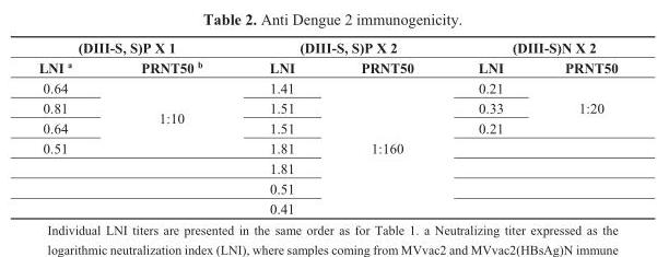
<table><thead><tr><td colspan="2">(DIII-S, S)P X 1</td><td colspan="2">(DIII-S, S)P X 2</td><td colspan="2">(DIII-S)N X 2</td></tr><tr><td>LNI <sup>a</sup></td><td>PRNT50 <sup>b</sup></td><td>LNI</td><td>PRNT50</td><td>LNI</td><td>PRNT50</td></tr></thead><tbody><tr><td>0.64</td><td rowspan="4">1:10</td><td>1.41</td><td rowspan="7">1:160</td><td>0.21</td><td rowspan="3">1:20</td></tr><tr><td>0.81</td><td>1.51</td><td>0.33</td></tr><tr><td>0.64</td><td>1.51</td><td>0.21</td></tr><tr><td rowspan="4">0.51</td><td>1.81</td><td></td><td></td></tr><tr><td></td><td>1.81</td><td></td><td></td></tr><tr><td></td><td>0.51</td><td></td><td></td></tr><tr><td></td><td>0.41</td><td></td><td></td></tr></tbody></table>